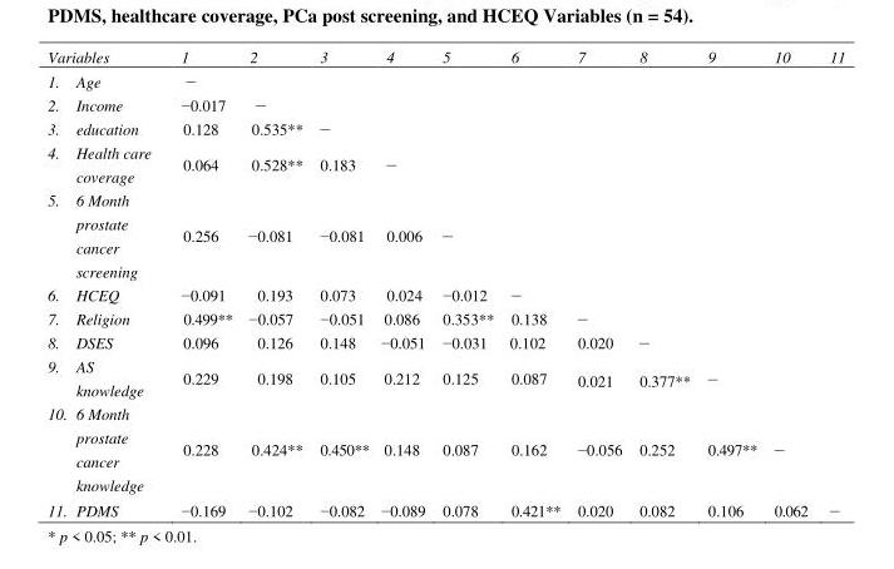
<table><thead><tr><td colspan="2">Variables</td><td rowspan="2">1 –</td><td rowspan="2">2</td><td rowspan="2">3</td><td rowspan="2">4</td><td rowspan="2">5</td><td rowspan="2">6</td><td rowspan="2">7</td><td rowspan="2">8</td><td rowspan="2">9</td><td rowspan="2">10</td><td rowspan="2">11</td></tr><tr><td>1.</td><td>Age</td></tr></thead><tbody><tr><td>2.</td><td>Income</td><td>−0.017</td><td>–</td><td></td><td></td><td></td><td></td><td></td><td></td><td></td><td></td><td></td></tr><tr><td>3.</td><td>education</td><td>0.128</td><td>0.535**</td><td>–</td><td></td><td></td><td></td><td></td><td></td><td></td><td></td><td></td></tr><tr><td>4.</td><td>Health care coverage</td><td>0.064</td><td>0.528**</td><td>0.183</td><td>–</td><td></td><td></td><td></td><td></td><td></td><td></td><td></td></tr><tr><td>5.</td><td>6 Month prostate cancer screening</td><td>0.256</td><td>−0.081</td><td>−0.081</td><td>0.006</td><td>–</td><td></td><td></td><td></td><td></td><td></td><td></td></tr><tr><td>6.</td><td>HCEQ</td><td>−0.091</td><td>0.193</td><td>0.073</td><td>0.024</td><td>−0.012</td><td>–</td><td></td><td></td><td></td><td></td><td></td></tr><tr><td>7.</td><td>Religion</td><td>0.499**</td><td>−0.057</td><td>−0.051</td><td>0.086</td><td>0.353**</td><td>0.138</td><td>–</td><td></td><td></td><td></td><td></td></tr><tr><td>8.</td><td>DSES</td><td>0.096</td><td>0.126</td><td>0.148</td><td>−0.051</td><td>−0.031</td><td>0.102</td><td>0.020</td><td>–</td><td></td><td></td><td></td></tr><tr><td>9.</td><td>AS knowledge</td><td>0.229</td><td>0.198</td><td>0.105</td><td>0.212</td><td>0.125</td><td>0.087</td><td>0.021</td><td>0.377**</td><td>–</td><td></td><td></td></tr><tr><td>10.</td><td>6 Month prostate cancer knowledge</td><td>0.228</td><td>0.424**</td><td>0.450**</td><td>0.148</td><td>0.087</td><td>0.162</td><td>−0.056</td><td>0.252</td><td>0.497**</td><td>–</td><td></td></tr><tr><td>11.</td><td>PDMS</td><td>−0.169</td><td>−0.102</td><td>−0.082</td><td>−0.089</td><td>0.078</td><td>0.421**</td><td>0.020</td><td>0.082</td><td>0.106</td><td>0.062</td><td>–</td></tr></tbody></table>